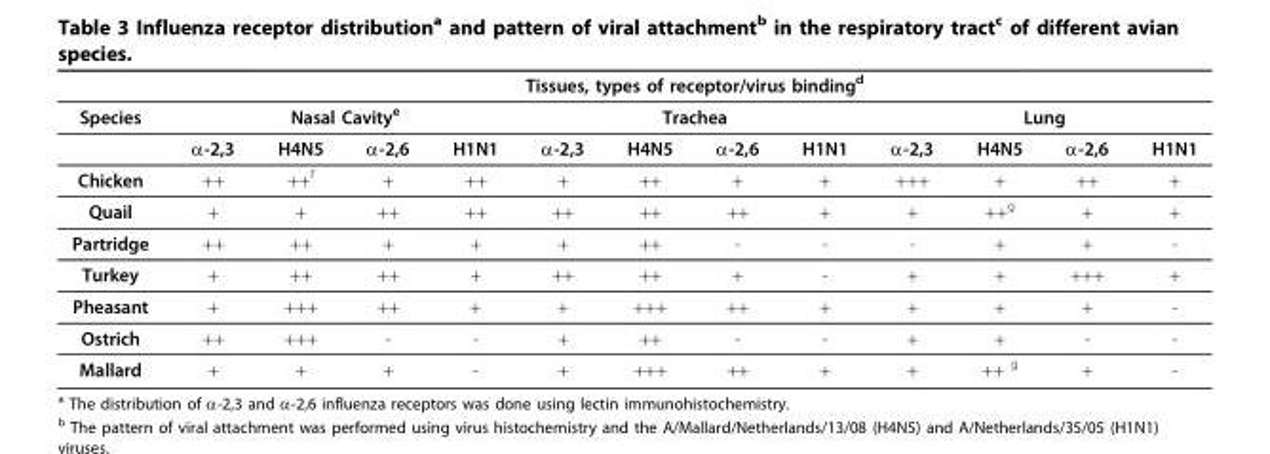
<table><thead><tr><td rowspan="3">Species</td><td colspan="12">Tissues, types of receptor/virus binding<sup>d</sup></td></tr><tr><td colspan="4">Nasal Cavitye</td><td colspan="4">Trachea</td><td colspan="4">Lung</td></tr><tr><td>α-2,3</td><td>H4N5</td><td>α-2,6</td><td>H1N1</td><td>α-2,3</td><td>H4N5</td><td>α-2,6</td><td>H1N1</td><td>α-2,3</td><td>H4N5</td><td>α-2,6</td><td>H1N1</td></tr></thead><tbody><tr><td>Chicken</td><td>++</td><td>++f</td><td>+</td><td>++</td><td>+</td><td>++</td><td>+</td><td>+</td><td>+++</td><td>+</td><td>++</td><td>+</td></tr><tr><td>Quail</td><td>+</td><td>+</td><td>++</td><td>++</td><td>++</td><td>++</td><td>++</td><td>+</td><td>+</td><td>++g</td><td>+</td><td>+</td></tr><tr><td>Partridge</td><td>++</td><td>++</td><td>+</td><td>+</td><td>+</td><td>++</td><td>-</td><td>-</td><td>-</td><td>+</td><td>+</td><td>-</td></tr><tr><td>Turkey</td><td>+</td><td>++</td><td>++</td><td>+</td><td>++</td><td>++</td><td>+</td><td>-</td><td>+</td><td>+</td><td>+++</td><td>+</td></tr><tr><td>Pheasant</td><td>+</td><td>+++</td><td>++</td><td>+</td><td>+</td><td>+++</td><td>++</td><td>+</td><td>+</td><td>+</td><td>+</td><td>-</td></tr><tr><td>Ostrich</td><td>++</td><td>+++</td><td>-</td><td>-</td><td>+</td><td>++</td><td>-</td><td>-</td><td>+</td><td>+</td><td>-</td><td>-</td></tr><tr><td>Mallard</td><td>+</td><td>+</td><td>+</td><td>-</td><td>+</td><td>+++</td><td>++</td><td>+</td><td>+</td><td>++ g</td><td>+</td><td>-</td></tr></tbody></table>